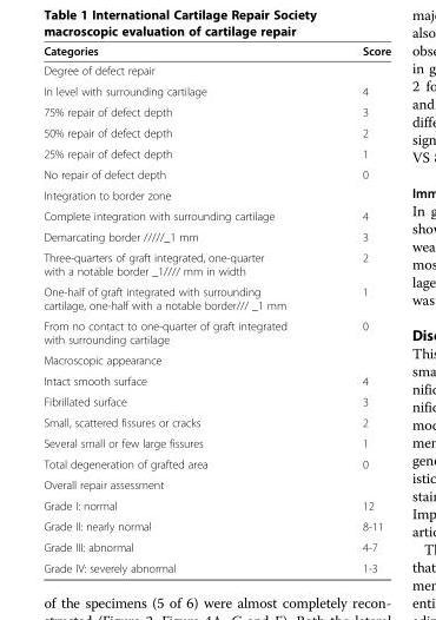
<table><thead><tr><td>Categories</td><td>Score</td></tr></thead><tbody><tr><td colspan="2">Degree of defect repair</td></tr><tr><td>In level with surrounding cartilage</td><td>4</td></tr><tr><td>75% repair of defect depth</td><td>3</td></tr><tr><td>50% repair of defect depth</td><td>2</td></tr><tr><td>25% repair of defect depth</td><td>1</td></tr><tr><td>No repair of defect depth</td><td>0</td></tr><tr><td colspan="2">Integration to border zone</td></tr><tr><td>Complete integration with surrounding cartilage</td><td>4</td></tr><tr><td>Demarcating border /////_1 mm</td><td>3</td></tr><tr><td>Three-quarters of graft integrated, one-quarter with a notable border _1//// mm in width</td><td>2</td></tr><tr><td>One-half of graft integrated with surrounding cartilage, one-half with a notable border/// _1 mm</td><td>1</td></tr><tr><td>From no contact to one-quarter of graft integrated with surrounding cartilage</td><td>0</td></tr><tr><td colspan="2">Macroscopic appearance</td></tr><tr><td>Intact smooth surface</td><td>4</td></tr><tr><td>Fibrillated surface</td><td>3</td></tr><tr><td>Small, scattered fissures or cracks</td><td>2</td></tr><tr><td>Several small or few large fissures</td><td>1</td></tr><tr><td>Total degeneration of grafted area</td><td>0</td></tr><tr><td colspan="2">Overall repair assessment</td></tr><tr><td>Grade I: normal</td><td>12</td></tr><tr><td>Grade II: nearly normal</td><td>8-11</td></tr><tr><td>Grade III: abnormal</td><td>4-7</td></tr><tr><td>Grade IV: severely abnormal</td><td>1-3</td></tr></tbody></table>